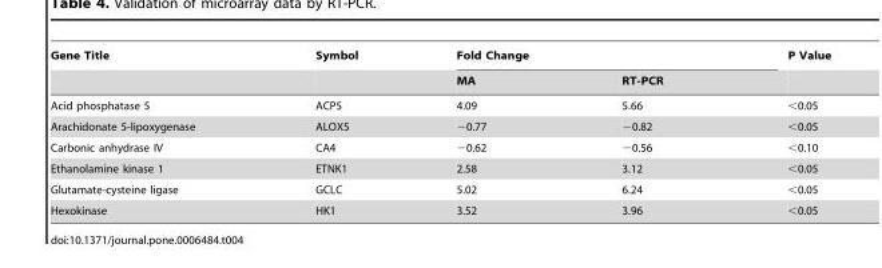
<table><thead><tr><td rowspan="2">Gene Title</td><td rowspan="2">Symbol</td><td colspan="2">Fold Change</td><td rowspan="2">P Value</td></tr><tr><td>MA</td><td>RT-PCR</td></tr></thead><tbody><tr><td>Acid phosphatase 5</td><td>ACP5</td><td>4.09</td><td>5.66</td><td>&lt;0.05</td></tr><tr><td>Arachidonate 5-lipoxygenase</td><td>ALOX5</td><td>−0.77</td><td>−0.82</td><td>&lt;0.05</td></tr><tr><td>Carbonic anhydrase IV</td><td>CA4</td><td>−0.62</td><td>−0.56</td><td>&lt;0.10</td></tr><tr><td>Ethanolamine kinase 1</td><td>ETNK1</td><td>2.58</td><td>3.12</td><td>&lt;0.05</td></tr><tr><td>Glutamate-cysteine ligase</td><td>GCLC</td><td>5.02</td><td>6.24</td><td>&lt;0.05</td></tr><tr><td>Hexokinase</td><td>HK1</td><td>3.52</td><td>3.96</td><td>&lt;0.05</td></tr></tbody></table>